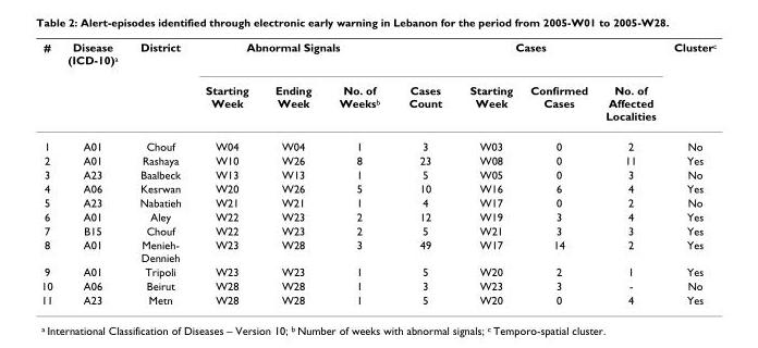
<table><thead><tr><td rowspan="2">#</td><td rowspan="2">Disease (ICD-10)<sup>a</sup></td><td rowspan="2">District</td><td colspan="3">Abnormal Signals</td><td colspan="4">Cases</td><td rowspan="2">Cluster<sup>c</sup></td></tr><tr><td>Starting Week</td><td>Ending Week</td><td>No. of Weeks<sup>b</sup></td><td>Cases Count</td><td>Starting Week</td><td>Confirmed Cases</td><td>No. of Affected Localities</td></tr></thead><tbody><tr><td>1</td><td>A01</td><td>Chouf</td><td>W04</td><td>W04</td><td>1</td><td>3</td><td>W03</td><td>0</td><td>2</td><td>No</td></tr><tr><td>2</td><td>A01</td><td>Rashaya</td><td>W10</td><td>W26</td><td>8</td><td>23</td><td>W08</td><td>0</td><td>11</td><td>Yes</td></tr><tr><td>3</td><td>A23</td><td>Baalbeck</td><td>W13</td><td>W13</td><td>1</td><td>5</td><td>W05</td><td>0</td><td>3</td><td>No</td></tr><tr><td>4</td><td>A06</td><td>Kesrwan</td><td>W20</td><td>W26</td><td>5</td><td>10</td><td>W16</td><td>6</td><td>4</td><td>Yes</td></tr><tr><td>5</td><td>A23</td><td>Nabatieh</td><td>W21</td><td>W21</td><td>1</td><td>4</td><td>W17</td><td>0</td><td>2</td><td>No</td></tr><tr><td>6</td><td>A01</td><td>Aley</td><td>W22</td><td>W23</td><td>2</td><td>12</td><td>W19</td><td>3</td><td>4</td><td>Yes</td></tr><tr><td>7</td><td>B15</td><td>Chouf</td><td>W22</td><td>W23</td><td>2</td><td>5</td><td>W21</td><td>3</td><td>3</td><td>Yes</td></tr><tr><td>8</td><td>A01</td><td>Menieh- Dennieh</td><td>W23</td><td>W28</td><td>3</td><td>49</td><td>W17</td><td>14</td><td>2</td><td>Yes</td></tr><tr><td>9</td><td>A01</td><td>Tripoli</td><td>W23</td><td>W23</td><td>1</td><td>5</td><td>W20</td><td>2</td><td>1</td><td>Yes</td></tr><tr><td>10</td><td>A06</td><td>Beirut</td><td>W28</td><td>W28</td><td>1</td><td>3</td><td>W23</td><td>3</td><td>-</td><td>No</td></tr><tr><td>11</td><td>A23</td><td>Metn</td><td>W28</td><td>W28</td><td>1</td><td>5</td><td>W20</td><td>0</td><td>4</td><td>Yes</td></tr></tbody></table>